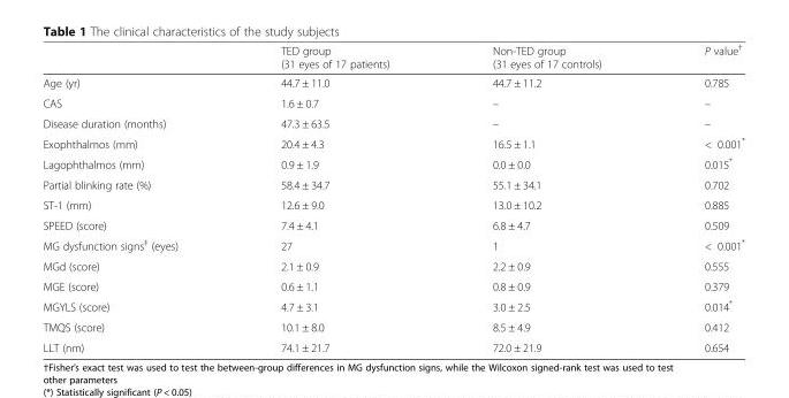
<table><thead><tr><td></td><td>TED group (31 eyes of 17 patients)</td><td>Non-TED group (31 eyes of 17 controls)</td><td>P value<sup>†</sup></td></tr></thead><tbody><tr><td>Age (yr)</td><td>44.7 ± 11.0</td><td>44.7 ± 11.2</td><td>0.785</td></tr><tr><td>CAS</td><td>1.6 ± 0.7</td><td>–</td><td>–</td></tr><tr><td>Disease duration (months)</td><td>47.3 ± 63.5</td><td>–</td><td>–</td></tr><tr><td>Exophthalmos (mm)</td><td>20.4 ± 4.3</td><td>16.5 ± 1.1</td><td>&lt; 0.001*</td></tr><tr><td>Lagophthalmos (mm)</td><td>0.9 ± 1.9</td><td>0.0 ± 0.0</td><td>0.015*</td></tr><tr><td>Partial blinking rate (%)</td><td>58.4 ± 34.7</td><td>55.1 ± 34.1</td><td>0.702</td></tr><tr><td>ST-1 (mm)</td><td>12.6 ± 9.0</td><td>13.0 ± 10.2</td><td>0.885</td></tr><tr><td>SPEED (score)</td><td>7.4 ± 4.1</td><td>6.8 ± 4.7</td><td>0.509</td></tr><tr><td>MG dysfunction signs<sup>‡</sup> (eyes)</td><td>27</td><td>1</td><td>&lt; 0.001*</td></tr><tr><td>MGd (score)</td><td>2.1 ± 0.9</td><td>2.2 ± 0.9</td><td>0.555</td></tr><tr><td>MGE (score)</td><td>0.6 ± 1.1</td><td>0.8 ± 0.9</td><td>0.379</td></tr><tr><td>MGYLS (score)</td><td>4.7 ± 3.1</td><td>3.0 ± 2.5</td><td>0.014*</td></tr><tr><td>TMQS (score)</td><td>10.1 ± 8.0</td><td>8.5 ± 4.9</td><td>0.412</td></tr><tr><td>LLT (nm)</td><td>74.1 ± 21.7</td><td>72.0 ± 21.9</td><td>0.654</td></tr></tbody></table>